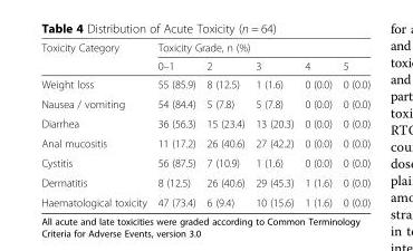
<table><thead><tr><td rowspan="2">Toxicity Category</td><td colspan="5">Toxicity Grade, n (%)</td></tr><tr><td>0–1</td><td>2</td><td>3</td><td>4</td><td>5</td></tr></thead><tbody><tr><td>Weight loss</td><td>55 (85.9)</td><td>8 (12.5)</td><td>1 (1.6)</td><td>0 (0.0)</td><td>0 (0.0)</td></tr><tr><td>Nausea / vomiting</td><td>54 (84.4)</td><td>5 (7.8)</td><td>5 (7.8)</td><td>0 (0.0)</td><td>0 (0.0)</td></tr><tr><td>Diarrhea</td><td>36 (56.3)</td><td>15 (23.4)</td><td>13 (20.3)</td><td>0 (0.0)</td><td>0 (0.0)</td></tr><tr><td>Anal mucositis</td><td>11 (17.2)</td><td>26 (40.6)</td><td>27 (42.2)</td><td>0 (0.0)</td><td>0 (0.0)</td></tr><tr><td>Cystitis</td><td>56 (87.5)</td><td>7 (10.9)</td><td>1 (1.6)</td><td>0 (0.0)</td><td>0 (0.0)</td></tr><tr><td>Dermatitis</td><td>8 (12.5)</td><td>26 (40.6)</td><td>29 (45.3)</td><td>1 (1.6)</td><td>0 (0.0)</td></tr><tr><td>Haematological toxicity</td><td>47 (73.4)</td><td>6 (9.4)</td><td>10 (15.6)</td><td>1 (1.6)</td><td>0 (0.0)</td></tr></tbody></table>